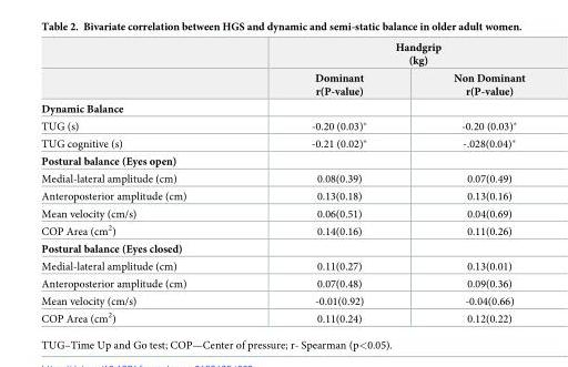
<table><thead><tr><td rowspan="2"></td><td colspan="2">Handgrip (kg)</td></tr><tr><td>Dominant r(P-value)</td><td>Non Dominant r(P-value)</td></tr></thead><tbody><tr><td colspan="3">Dynamic Balance</td></tr><tr><td>TUG (s)</td><td>-0.20 (0.03)*</td><td>-0.20 (0.03)*</td></tr><tr><td>TUG cognitive (s)</td><td>-0.21 (0.02)*</td><td>-.028(0.04)*</td></tr><tr><td colspan="3">Postural balance (Eyes open)</td></tr><tr><td>Medial-lateral amplitude (cm)</td><td>0.08(0.39)</td><td>0.07(0.49)</td></tr><tr><td>Anteroposterior amplitude (cm)</td><td>0.13(0.18)</td><td>0.13(0.16)</td></tr><tr><td>Mean velocity (cm/s)</td><td>0.06(0.51)</td><td>0.04(0.69)</td></tr><tr><td>COP Area (cm<sup>2</sup>)</td><td>0.14(0.16)</td><td>0.11(0.26)</td></tr><tr><td colspan="3">Postural balance (Eyes closed)</td></tr><tr><td>Medial-lateral amplitude (cm)</td><td>0.11(0.27)</td><td>0.13(0.01)</td></tr><tr><td>Anteroposterior amplitude (cm)</td><td>0.07(0.48)</td><td>0.09(0.36)</td></tr><tr><td>Mean velocity (cm/s)</td><td>-0.01(0.92)</td><td>-0.04(0.66)</td></tr><tr><td>COP Area (cm<sup>2</sup>)</td><td>0.11(0.24)</td><td>0.12(0.22)</td></tr></tbody></table>